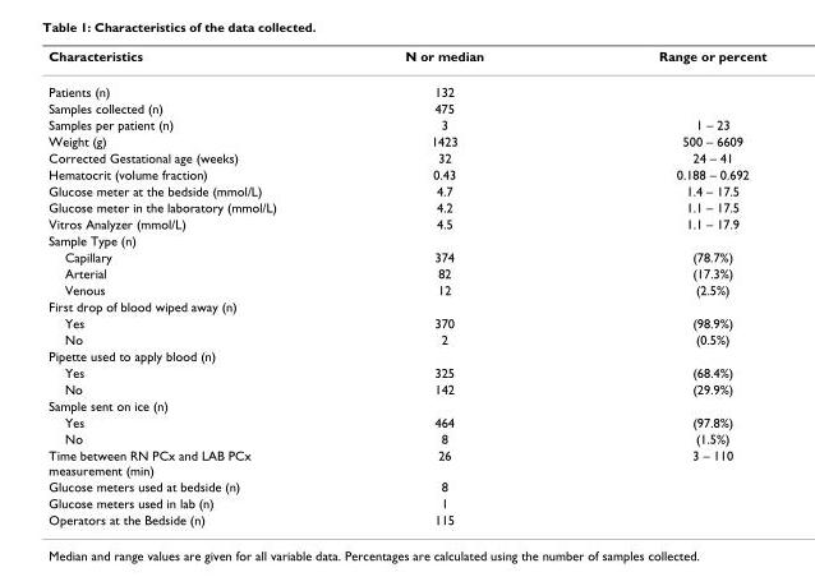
<table><thead><tr><td>Characteristics</td><td>N or median</td><td>Range or percent</td></tr></thead><tbody><tr><td>Patients (n)</td><td>132</td><td></td></tr><tr><td>Samples collected (n)</td><td>475</td><td></td></tr><tr><td>Samples per patient (n)</td><td>3</td><td>1 – 23</td></tr><tr><td>Weight (g)</td><td>1423</td><td>500 – 6609</td></tr><tr><td>Corrected Gestational age (weeks)</td><td>32</td><td>24 – 41</td></tr><tr><td>Hematocrit (volume fraction)</td><td>0.43</td><td>0.188 – 0.692</td></tr><tr><td>Glucose meter at the bedside (mmol/L)</td><td>4.7</td><td>1.4 – 17.5</td></tr><tr><td>Glucose meter in the laboratory (mmol/L)</td><td>4.2</td><td>1.1 – 17.5</td></tr><tr><td>Vitros Analyzer (mmol/L)</td><td>4.5</td><td>1.1 – 17.9</td></tr><tr><td colspan="3">Sample Type (n)</td></tr><tr><td>Capillary</td><td>374</td><td>(78.7%)</td></tr><tr><td>Arterial</td><td>82</td><td>(17.3%)</td></tr><tr><td>Venous</td><td>12</td><td>(2.5%)</td></tr><tr><td colspan="3">First drop of blood wiped away (n)</td></tr><tr><td>Yes</td><td>370</td><td>(98.9%)</td></tr><tr><td>No</td><td>2</td><td>(0.5%)</td></tr><tr><td colspan="3">Pipette used to apply blood (n)</td></tr><tr><td>Yes</td><td>325</td><td>(68.4%)</td></tr><tr><td>No</td><td>142</td><td>(29.9%)</td></tr><tr><td colspan="3">Sample sent on ice (n)</td></tr><tr><td>Yes</td><td>464</td><td>(97.8%)</td></tr><tr><td>No</td><td>8</td><td>(1.5%)</td></tr><tr><td>Time between RN PCx and LAB PCx measurement (min)</td><td>26</td><td>3 – 110</td></tr><tr><td>Glucose meters used at bedside (n)</td><td>8</td><td></td></tr><tr><td>Glucose meters used in lab (n)</td><td>1</td><td></td></tr><tr><td>Operators at the Bedside (n)</td><td>115</td><td></td></tr></tbody></table>